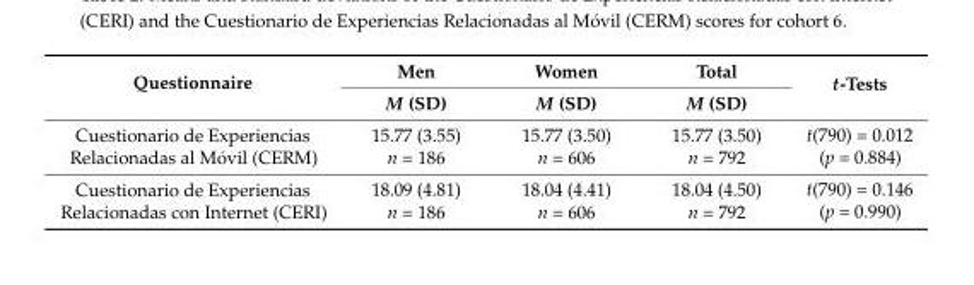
<table><thead><tr><td rowspan="2">Questionnaire</td><td rowspan="2">Men M (SD)</td><td rowspan="2">Women M (SD)</td><td rowspan="2">Total M (SD)</td><td rowspan="2">t-Tests</td></tr><tr></tr></thead><tbody><tr><td rowspan="2">Cuestionario de Experiencias Relacionadas al Móvil (CERM)</td><td>15.77 (3.55)</td><td>15.77 (3.50)</td><td>15.77 (3.50)</td><td rowspan="2">t(790) = 0.012 (p = 0.884)</td></tr><tr><td>n = 186</td><td>n = 606</td><td>n = 792</td></tr><tr><td rowspan="2">Cuestionario de Experiencias Relacionadas con Internet (CERI)</td><td>18.09 (4.81)</td><td>18.04 (4.41)</td><td>18.04 (4.50)</td><td rowspan="2">t(790) = 0.146 (p = 0.990)</td></tr><tr><td>n = 186</td><td>n = 606</td><td>n = 792</td></tr></tbody></table>